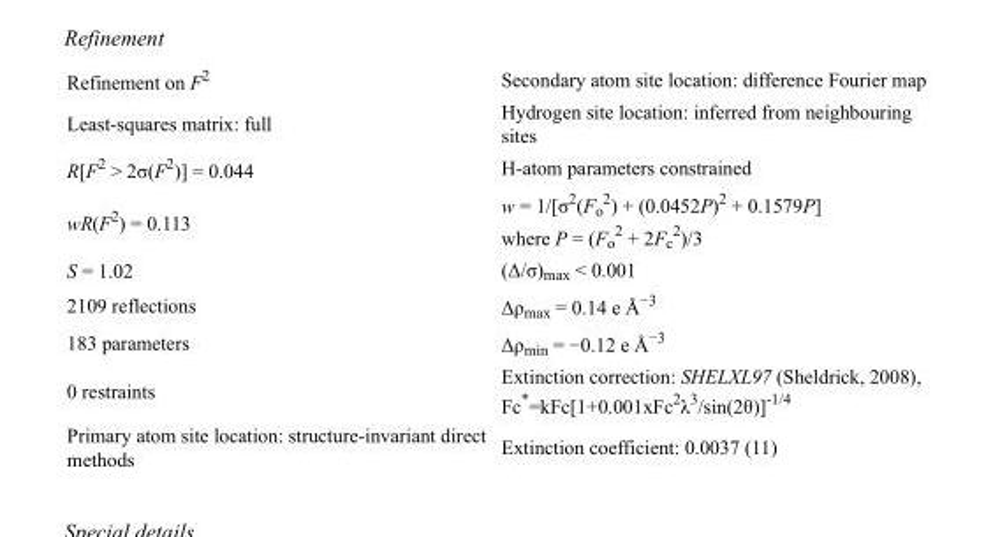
<table><tbody><tr><td>Refinement on F<sup>2</sup></td><td>Secondary atom site location: difference Fourier map</td></tr><tr><td>Least-squares matrix: full</td><td>Hydrogen site location: inferred from neighbouring sites</td></tr><tr><td>R[F<sup>2</sup> &gt; 2σ(F<sup>2</sup>)] = 0.044</td><td>H-atom parameters constrained</td></tr><tr><td>wR(F<sup>2</sup>) = 0.113</td><td>w = 1/[σ<sup>2</sup>(F<sub>o</sub> <sup>2</sup>) + (0.0452P)<sup>2</sup> + 0.1579P] where P = (F<sub>o</sub> <sup>2</sup> + 2F<sub>c</sub> <sup>2</sup>)/3</td></tr><tr><td>S = 1.02</td><td>(Δ/σ)<sub>max</sub> &lt; 0.001</td></tr><tr><td>2109 reflections</td><td>Δρ<sub>max</sub> = 0.14 e Å<sup>−3</sup></td></tr><tr><td>183 parameters</td><td>Δρ<sub>min</sub> = −0.12 e Å<sup>−3</sup></td></tr><tr><td>0 restraints</td><td>Extinction correction: SHELXL97 (Sheldrick, 2008), Fc*=kFc[1+0.001xFc<sup>2</sup>λ<sup>3</sup>/sin(2θ)]<sup>-1/4</sup></td></tr><tr><td>Primary atom site location: structure-invariant direct methods</td><td>Extinction coefficient: 0.0037 (11)</td></tr></tbody></table>